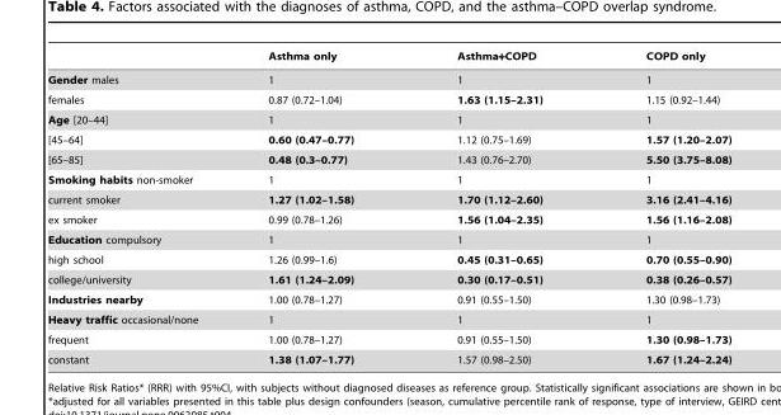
<table><thead><tr><td></td><td>Asthma only</td><td>Asthma+COPD</td><td>COPD only</td></tr></thead><tbody><tr><td>Gender males</td><td>1</td><td>1</td><td>1</td></tr><tr><td>females</td><td>0.87 (0.72–1.04)</td><td>1.63 (1.15–2.31)</td><td>1.15 (0.92–1.44)</td></tr><tr><td>Age [20–44]</td><td>1</td><td>1</td><td>1</td></tr><tr><td>[45–64]</td><td>0.60 (0.47–0.77)</td><td>1.12 (0.75–1.69)</td><td>1.57 (1.20–2.07)</td></tr><tr><td>[65–85]</td><td>0.48 (0.3–0.77)</td><td>1.43 (0.76–2.70)</td><td>5.50 (3.75–8.08)</td></tr><tr><td>Smoking habits non-smoker</td><td>1</td><td>1</td><td>1</td></tr><tr><td>current smoker</td><td>1.27 (1.02–1.58)</td><td>1.70 (1.12–2.60)</td><td>3.16 (2.41–4.16)</td></tr><tr><td>ex smoker</td><td>0.99 (0.78–1.26)</td><td>1.56 (1.04–2.35)</td><td>1.56 (1.16–2.08)</td></tr><tr><td>Education compulsory</td><td>1</td><td>1</td><td>1</td></tr><tr><td>high school</td><td>1.26 (0.99–1.6)</td><td>0.45 (0.31–0.65)</td><td>0.70 (0.55–0.90)</td></tr><tr><td>college/university</td><td>1.61 (1.24–2.09)</td><td>0.30 (0.17–0.51)</td><td>0.38 (0.26–0.57)</td></tr><tr><td>Industries nearby</td><td>1.00 (0.78–1.27)</td><td>0.91 (0.55–1.50)</td><td>1.30 (0.98–1.73)</td></tr><tr><td>Heavy traffic occasional/none</td><td>1</td><td>1</td><td>1</td></tr><tr><td>frequent</td><td>1.00 (0.78–1.27)</td><td>0.91 (0.55–1.50)</td><td>1.30 (0.98–1.73)</td></tr><tr><td>constant</td><td>1.38 (1.07–1.77)</td><td>1.57 (0.98–2.50)</td><td>1.67 (1.24–2.24)</td></tr></tbody></table>